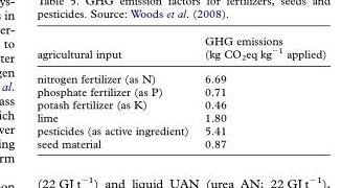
<table><thead><tr><td>agricultural input</td><td>GHG emissions (kg CO<sub>2</sub>eq kg<sup>−1</sup> applied)</td></tr></thead><tbody><tr><td>nitrogen fertilizer (as N)</td><td>6.69</td></tr><tr><td>phosphate fertilizer (as P)</td><td>0.71</td></tr><tr><td>potash fertilizer (as K)</td><td>0.46</td></tr><tr><td>lime</td><td>1.80</td></tr><tr><td>pesticides (as active ingredient)</td><td>5.41</td></tr><tr><td>seed material</td><td>0.87</td></tr></tbody></table>